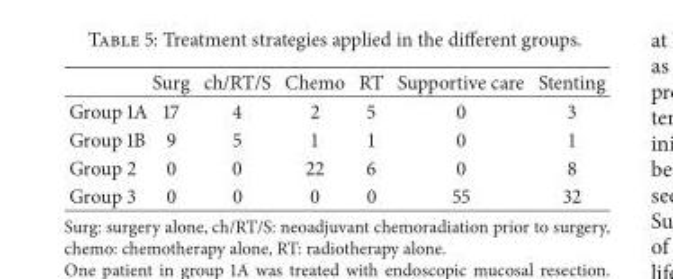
<table><thead><tr><td></td><td>Surg</td><td>ch/RT/S</td><td>Chemo</td><td>RT</td><td>Supportive care</td><td>Stenting</td></tr></thead><tbody><tr><td>Group 1A</td><td>17</td><td>4</td><td>2</td><td>5</td><td>0</td><td>3</td></tr><tr><td>Group 1B</td><td>9</td><td>5</td><td>1</td><td>1</td><td>0</td><td>1</td></tr><tr><td>Group 2</td><td>0</td><td>0</td><td>22</td><td>6</td><td>0</td><td>8</td></tr><tr><td>Group 3</td><td>0</td><td>0</td><td>0</td><td>0</td><td>55</td><td>32</td></tr></tbody></table>